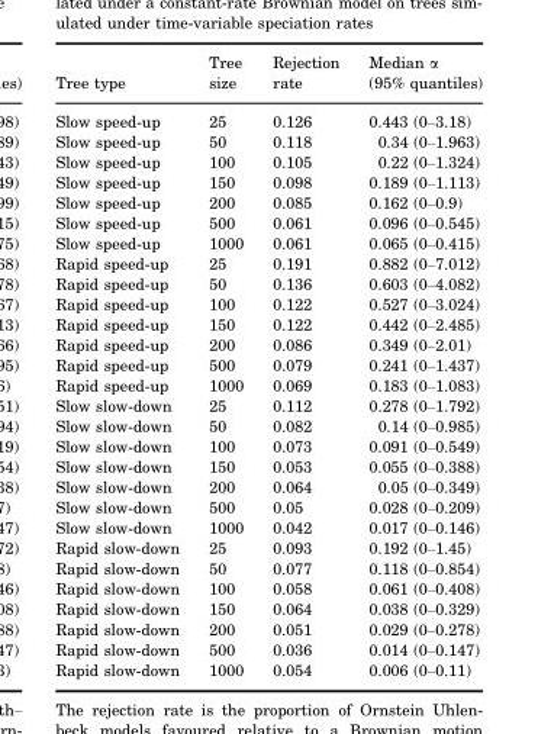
<table><thead><tr><td>Tree type</td><td>Tree size</td><td>Rejection rate</td><td>Median α (95% quantiles)</td></tr></thead><tbody><tr><td>Slow speed-up</td><td>25</td><td>0.126</td><td>0.443 (0–3.18)</td></tr><tr><td>Slow speed-up</td><td>50</td><td>0.118</td><td>0.34 (0–1.963)</td></tr><tr><td>Slow speed-up</td><td>100</td><td>0.105</td><td>0.22 (0–1.324)</td></tr><tr><td>Slow speed-up</td><td>150</td><td>0.098</td><td>0.189 (0–1.113)</td></tr><tr><td>Slow speed-up</td><td>200</td><td>0.085</td><td>0.162 (0–0.9)</td></tr><tr><td>Slow speed-up</td><td>500</td><td>0.061</td><td>0.096 (0–0.545)</td></tr><tr><td>Slow speed-up</td><td>1000</td><td>0.061</td><td>0.065 (0–0.415)</td></tr><tr><td>Rapid speed-up</td><td>25</td><td>0.191</td><td>0.882 (0–7.012)</td></tr><tr><td>Rapid speed-up</td><td>50</td><td>0.136</td><td>0.603 (0–4.082)</td></tr><tr><td>Rapid speed-up</td><td>100</td><td>0.122</td><td>0.527 (0–3.024)</td></tr><tr><td>Rapid speed-up</td><td>150</td><td>0.122</td><td>0.442 (0–2.485)</td></tr><tr><td>Rapid speed-up</td><td>200</td><td>0.086</td><td>0.349 (0–2.01)</td></tr><tr><td>Rapid speed-up</td><td>500</td><td>0.079</td><td>0.241 (0–1.437)</td></tr><tr><td>Rapid speed-up</td><td>1000</td><td>0.069</td><td>0.183 (0–1.083)</td></tr><tr><td>Slow slow-down</td><td>25</td><td>0.112</td><td>0.278 (0–1.792)</td></tr><tr><td>Slow slow-down</td><td>50</td><td>0.082</td><td>0.14 (0–0.985)</td></tr><tr><td>Slow slow-down</td><td>100</td><td>0.073</td><td>0.091 (0–0.549)</td></tr><tr><td>Slow slow-down</td><td>150</td><td>0.053</td><td>0.055 (0–0.388)</td></tr><tr><td>Slow slow-down</td><td>200</td><td>0.064</td><td>0.05 (0–0.349)</td></tr><tr><td>Slow slow-down</td><td>500</td><td>0.05</td><td>0.028 (0–0.209)</td></tr><tr><td>Slow slow-down</td><td>1000</td><td>0.042</td><td>0.017 (0–0.146)</td></tr><tr><td>Rapid slow-down</td><td>25</td><td>0.093</td><td>0.192 (0–1.45)</td></tr><tr><td>Rapid slow-down</td><td>50</td><td>0.077</td><td>0.118 (0–0.854)</td></tr><tr><td>Rapid slow-down</td><td>100</td><td>0.058</td><td>0.061 (0–0.408)</td></tr><tr><td>Rapid slow-down</td><td>150</td><td>0.064</td><td>0.038 (0–0.329)</td></tr><tr><td>Rapid slow-down</td><td>200</td><td>0.051</td><td>0.029 (0–0.278)</td></tr><tr><td>Rapid slow-down</td><td>500</td><td>0.036</td><td>0.014 (0–0.147)</td></tr><tr><td>Rapid slow-down</td><td>1000</td><td>0.054</td><td>0.006 (0–0.11)</td></tr></tbody></table>